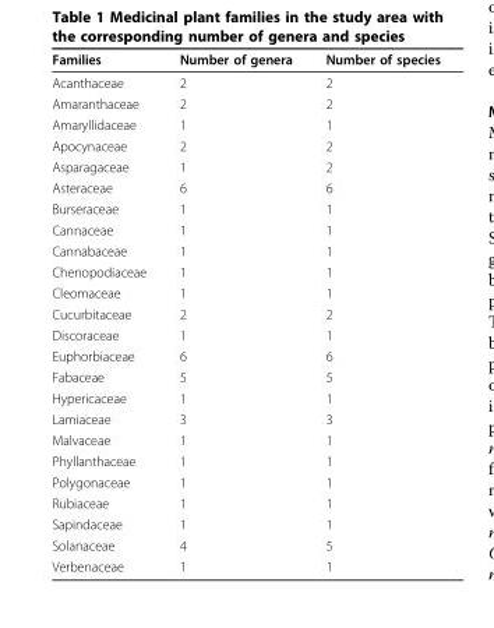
<table><thead><tr><td>Families</td><td>Number of genera</td><td>Number of species</td></tr></thead><tbody><tr><td>Acanthaceae</td><td>2</td><td>2</td></tr><tr><td>Amaranthaceae</td><td>2</td><td>2</td></tr><tr><td>Amaryllidaceae</td><td>1</td><td>1</td></tr><tr><td>Apocynaceae</td><td>2</td><td>2</td></tr><tr><td>Asparagaceae</td><td>1</td><td>2</td></tr><tr><td>Asteraceae</td><td>6</td><td>6</td></tr><tr><td>Burseraceae</td><td>1</td><td>1</td></tr><tr><td>Cannaceae</td><td>1</td><td>1</td></tr><tr><td>Cannabaceae</td><td>1</td><td>1</td></tr><tr><td>Chenopodiaceae</td><td>1</td><td>1</td></tr><tr><td>Cleomaceae</td><td>1</td><td>1</td></tr><tr><td>Cucurbitaceae</td><td>2</td><td>2</td></tr><tr><td>Discoraceae</td><td>1</td><td>1</td></tr><tr><td>Euphorbiaceae</td><td>6</td><td>6</td></tr><tr><td>Fabaceae</td><td>5</td><td>5</td></tr><tr><td>Hypericaceae</td><td>1</td><td>1</td></tr><tr><td>Lamiaceae</td><td>3</td><td>3</td></tr><tr><td>Malvaceae</td><td>1</td><td>1</td></tr><tr><td>Phyllanthaceae</td><td>1</td><td>1</td></tr><tr><td>Polygonaceae</td><td>1</td><td>1</td></tr><tr><td>Rubiaceae</td><td>1</td><td>1</td></tr><tr><td>Sapindaceae</td><td>1</td><td>1</td></tr><tr><td>Solanaceae</td><td>4</td><td>5</td></tr><tr><td>Verbenaceae</td><td>1</td><td>1</td></tr></tbody></table>